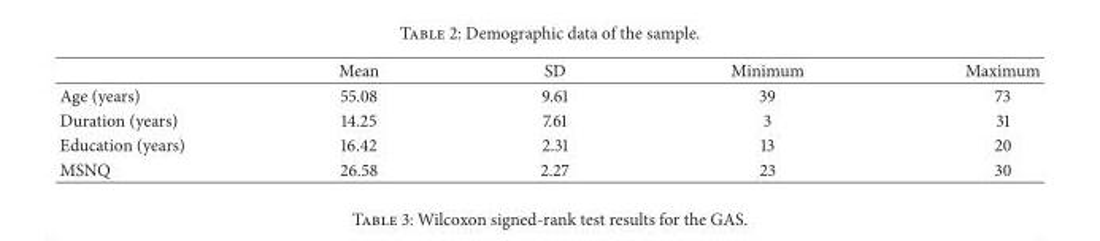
<table><thead><tr><td></td><td>Mean</td><td>SD</td><td>Minimum</td><td>Maximum</td></tr></thead><tbody><tr><td>Age (years)</td><td>55.08</td><td>9.61</td><td>39</td><td>73</td></tr><tr><td>Duration (years)</td><td>14.25</td><td>7.61</td><td>3</td><td>31</td></tr><tr><td>Education (years)</td><td>16.42</td><td>2.31</td><td>13</td><td>20</td></tr><tr><td>MSNQ</td><td>26.58</td><td>2.27</td><td>23</td><td>30</td></tr></tbody></table>